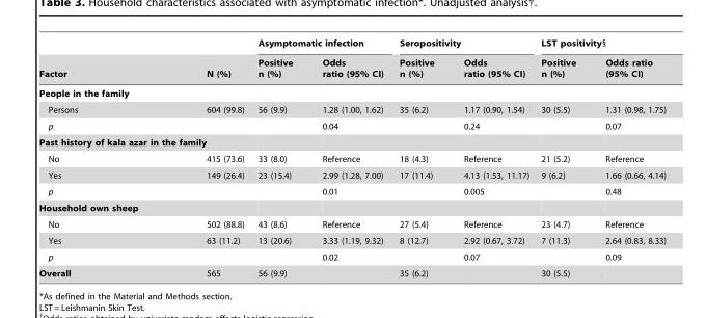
<table><thead><tr><td rowspan="2">Factor</td><td rowspan="2">N (%)</td><td colspan="2">Asymptomatic infection</td><td colspan="2">Seropositivity</td><td colspan="2">LST positivity§</td></tr><tr><td>Positive n (%)</td><td>Odds ratio (95% CI)</td><td>Positive n (%)</td><td>Odds ratio (95% CI)</td><td>Positive n (%)</td><td>Odds ratio (95% CI)</td></tr></thead><tbody><tr><td colspan="8">People in the family</td></tr><tr><td>Persons</td><td>604 (99.8)</td><td>56 (9.9)</td><td>1.28 (1.00, 1.62)</td><td>35 (6.2)</td><td>1.17 (0.90, 1.54)</td><td>30 (5.5)</td><td>1.31 (0.98, 1.75)</td></tr><tr><td>p</td><td></td><td></td><td>0.04</td><td></td><td>0.24</td><td></td><td>0.07</td></tr><tr><td colspan="8">Past history of kala azar in the family</td></tr><tr><td>No</td><td>415 (73.6)</td><td>33 (8.0)</td><td>Reference</td><td>18 (4.3)</td><td>Reference</td><td>21 (5.2)</td><td>Reference</td></tr><tr><td>Yes</td><td>149 (26.4)</td><td>23 (15.4)</td><td>2.99 (1.28, 7.00)</td><td>17 (11.4)</td><td>4.13 (1.53, 11.17)</td><td>9 (6.2)</td><td>1.66 (0.66, 4.14)</td></tr><tr><td>p</td><td></td><td></td><td>0.01</td><td></td><td>0.005</td><td></td><td>0.48</td></tr><tr><td colspan="8">Household own sheep</td></tr><tr><td>No</td><td>502 (88.8)</td><td>43 (8.6)</td><td>Reference</td><td>27 (5.4)</td><td>Reference</td><td>23 (4.7)</td><td>Reference</td></tr><tr><td>Yes</td><td>63 (11.2)</td><td>13 (20.6)</td><td>3.33 (1.19, 9.32)</td><td>8 (12.7)</td><td>2.92 (0.67, 3.72)</td><td>7 (11.3)</td><td>2.64 (0.83, 8.33)</td></tr><tr><td>p</td><td></td><td></td><td>0.02</td><td></td><td>0.07</td><td></td><td>0.09</td></tr><tr><td>Overall</td><td>565</td><td>56 (9.9)</td><td></td><td>35 (6.2)</td><td></td><td>30 (5.5)</td><td></td></tr></tbody></table>